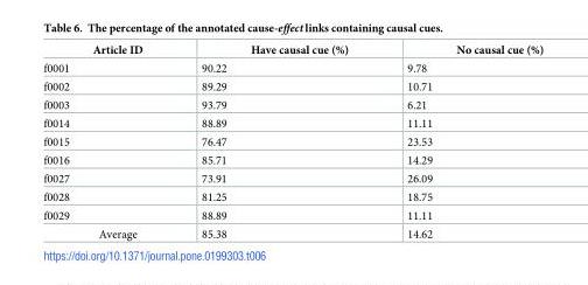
<table><thead><tr><td>Article ID</td><td>Have causal cue (%)</td><td>No causal cue (%)</td></tr></thead><tbody><tr><td>f0001</td><td>90.22</td><td>9.78</td></tr><tr><td>f0002</td><td>89.29</td><td>10.71</td></tr><tr><td>f0003</td><td>93.79</td><td>6.21</td></tr><tr><td>f0014</td><td>88.89</td><td>11.11</td></tr><tr><td>f0015</td><td>76.47</td><td>23.53</td></tr><tr><td>f0016</td><td>85.71</td><td>14.29</td></tr><tr><td>f0027</td><td>73.91</td><td>26.09</td></tr><tr><td>f0028</td><td>81.25</td><td>18.75</td></tr><tr><td>f0029</td><td>88.89</td><td>11.11</td></tr><tr><td>Average</td><td>85.38</td><td>14.62</td></tr></tbody></table>